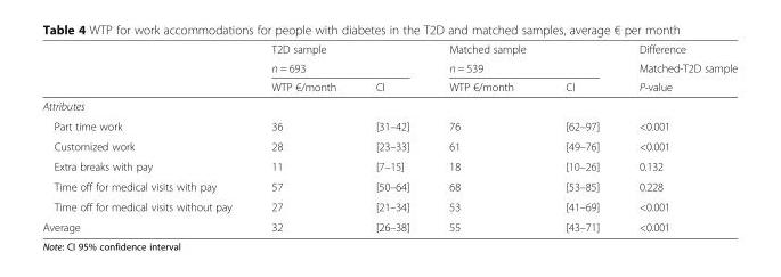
<table><thead><tr><td rowspan="3"></td><td>T2D sample</td><td></td><td>Matched sample</td><td></td><td rowspan="3">Difference Matched-T2D sample P-value</td></tr><tr><td colspan="2">n = 693</td><td colspan="2">n = 539</td></tr><tr><td>WTP €/month</td><td>CI</td><td>WTP €/month</td><td>CI</td></tr></thead><tbody><tr><td colspan="6">Attributes</td></tr><tr><td>Part time work</td><td>36</td><td>[31–42]</td><td>76</td><td>[62–97]</td><td>&lt;0.001</td></tr><tr><td>Customized work</td><td>28</td><td>[23–33]</td><td>61</td><td>[49–76]</td><td>&lt;0.001</td></tr><tr><td>Extra breaks with pay</td><td>11</td><td>[7–15]</td><td>18</td><td>[10–26]</td><td>0.132</td></tr><tr><td>Time off for medical visits with pay</td><td>57</td><td>[50–64]</td><td>68</td><td>[53–85]</td><td>0.228</td></tr><tr><td>Time off for medical visits without pay</td><td>27</td><td>[21–34]</td><td>53</td><td>[41–69]</td><td>&lt;0.001</td></tr><tr><td>Average</td><td>32</td><td>[26–38]</td><td>55</td><td>[43–71]</td><td>&lt;0.001</td></tr></tbody></table>